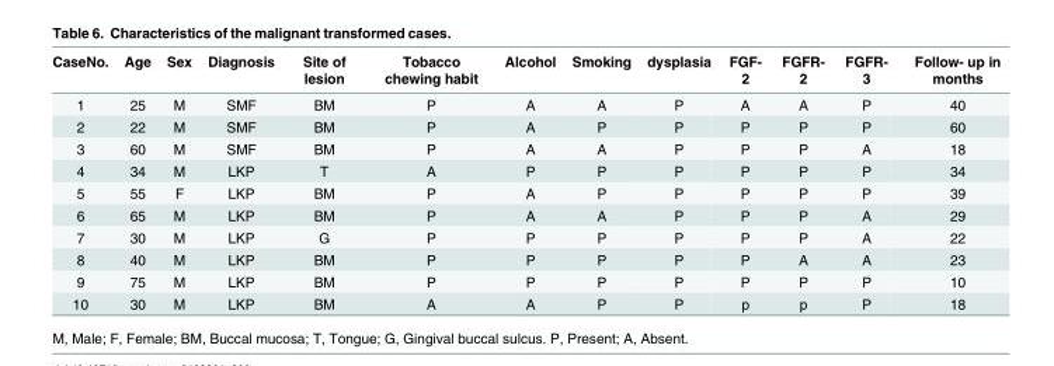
<table><thead><tr><td>CaseNo.</td><td>Age</td><td>Sex</td><td>Diagnosis</td><td>Site of lesion</td><td>Tobacco chewing habit</td><td>Alcohol</td><td>Smoking</td><td>dysplasia</td><td>FGF- 2</td><td>FGFR- 2</td><td>FGFR- 3</td><td>Follow- up in months</td></tr></thead><tbody><tr><td>1</td><td>25</td><td>M</td><td>SMF</td><td>BM</td><td>P</td><td>A</td><td>A</td><td>P</td><td>A</td><td>A</td><td>P</td><td>40</td></tr><tr><td>2</td><td>22</td><td>M</td><td>SMF</td><td>BM</td><td>P</td><td>A</td><td>P</td><td>P</td><td>P</td><td>P</td><td>P</td><td>60</td></tr><tr><td>3</td><td>60</td><td>M</td><td>SMF</td><td>BM</td><td>P</td><td>A</td><td>A</td><td>P</td><td>P</td><td>P</td><td>A</td><td>18</td></tr><tr><td>4</td><td>34</td><td>M</td><td>LKP</td><td>T</td><td>A</td><td>P</td><td>P</td><td>P</td><td>P</td><td>P</td><td>P</td><td>34</td></tr><tr><td>5</td><td>55</td><td>F</td><td>LKP</td><td>BM</td><td>P</td><td>A</td><td>P</td><td>P</td><td>P</td><td>P</td><td>P</td><td>39</td></tr><tr><td>6</td><td>65</td><td>M</td><td>LKP</td><td>BM</td><td>P</td><td>A</td><td>A</td><td>P</td><td>P</td><td>P</td><td>A</td><td>29</td></tr><tr><td>7</td><td>30</td><td>M</td><td>LKP</td><td>G</td><td>P</td><td>P</td><td>P</td><td>P</td><td>P</td><td>P</td><td>A</td><td>22</td></tr><tr><td>8</td><td>40</td><td>M</td><td>LKP</td><td>BM</td><td>P</td><td>P</td><td>P</td><td>P</td><td>P</td><td>A</td><td>A</td><td>23</td></tr><tr><td>9</td><td>75</td><td>M</td><td>LKP</td><td>BM</td><td>P</td><td>P</td><td>P</td><td>P</td><td>P</td><td>P</td><td>P</td><td>10</td></tr><tr><td>10</td><td>30</td><td>M</td><td>LKP</td><td>BM</td><td>A</td><td>A</td><td>P</td><td>P</td><td>p</td><td>p</td><td>P</td><td>18</td></tr></tbody></table>